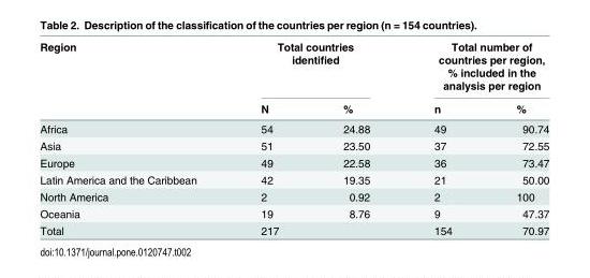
<table><thead><tr><td rowspan="2">Region</td><td colspan="2">Total countries identified</td><td colspan="2">Total number of countries per region, % included in the analysis per region</td></tr><tr><td>N</td><td>%</td><td>n</td><td>%</td></tr></thead><tbody><tr><td>Africa</td><td>54</td><td>24.88</td><td>49</td><td>90.74</td></tr><tr><td>Asia</td><td>51</td><td>23.50</td><td>37</td><td>72.55</td></tr><tr><td>Europe</td><td>49</td><td>22.58</td><td>36</td><td>73.47</td></tr><tr><td>Latin America and the Caribbean</td><td>42</td><td>19.35</td><td>21</td><td>50.00</td></tr><tr><td>North America</td><td>2</td><td>0.92</td><td>2</td><td>100</td></tr><tr><td>Oceania</td><td>19</td><td>8.76</td><td>9</td><td>47.37</td></tr><tr><td>Total</td><td>217</td><td></td><td>154</td><td>70.97</td></tr></tbody></table>